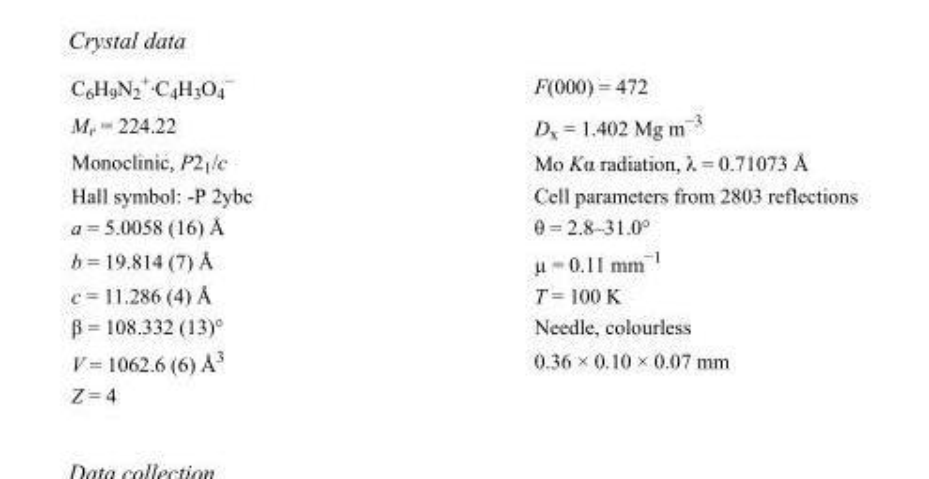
<table><tbody><tr><td>C<sub>6</sub>H<sub>9</sub>N<sub>2</sub> <sup>+</sup>·C<sub>4</sub>H<sub>3</sub>O<sub>4</sub> <sup>−</sup></td><td>F(000) = 472</td></tr><tr><td>M<sub>r</sub> = 224.22</td><td>D<sub>x</sub> = 1.402 Mg m<sup>−3</sup></td></tr><tr><td>Monoclinic, P2<sub>1</sub>/c</td><td>Mo Kα radiation, λ = 0.71073 Å</td></tr><tr><td>Hall symbol: -P 2ybc</td><td>Cell parameters from 2803 reflections</td></tr><tr><td>a = 5.0058 (16) Å</td><td>θ = 2.8–31.0°</td></tr><tr><td>b = 19.814 (7) Å</td><td>µ = 0.11 mm<sup>−1</sup></td></tr><tr><td>c = 11.286 (4) Å</td><td>T = 100 K</td></tr><tr><td>β = 108.332 (13)°</td><td>Needle, colourless</td></tr><tr><td>V = 1062.6 (6) Å<sup>3</sup></td><td>0.36 × 0.10 × 0.07 mm</td></tr><tr><td>Z = 4</td><td></td></tr></tbody></table>